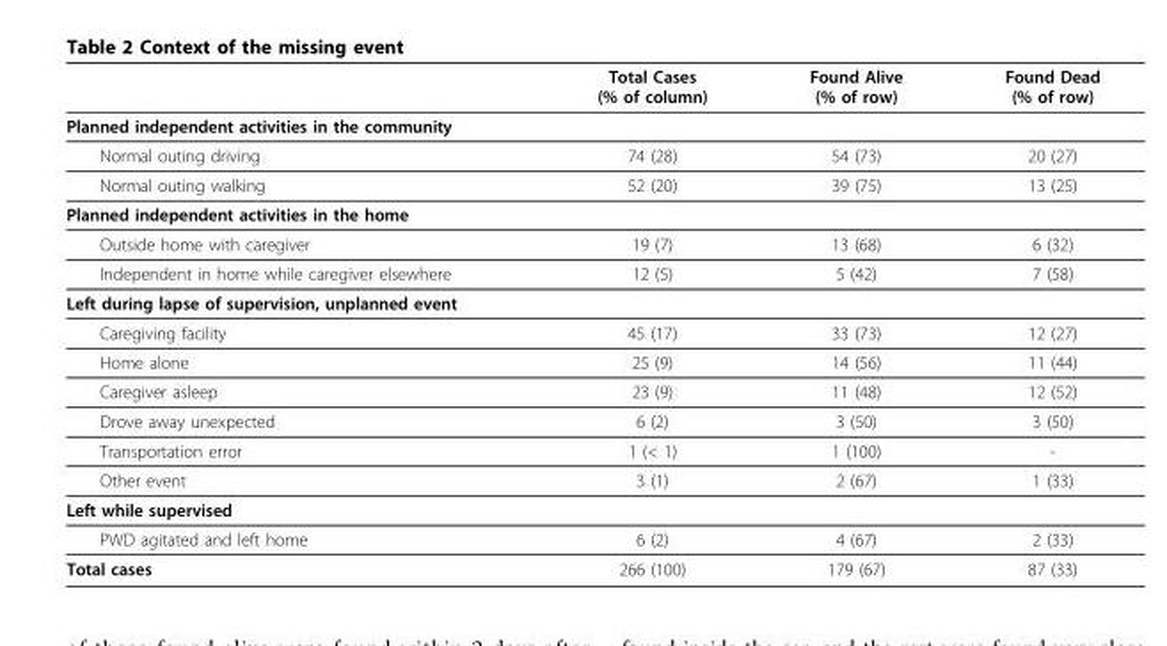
<table><thead><tr><td></td><td>Total Cases (% of column)</td><td>Found Alive (% of row)</td><td>Found Dead (% of row)</td></tr></thead><tbody><tr><td colspan="4">Planned independent activities in the community</td></tr><tr><td>Normal outing driving</td><td>74 (28)</td><td>54 (73)</td><td>20 (27)</td></tr><tr><td>Normal outing walking</td><td>52 (20)</td><td>39 (75)</td><td>13 (25)</td></tr><tr><td colspan="4">Planned independent activities in the home</td></tr><tr><td>Outside home with caregiver</td><td>19 (7)</td><td>13 (68)</td><td>6 (32)</td></tr><tr><td>Independent in home while caregiver elsewhere</td><td>12 (5)</td><td>5 (42)</td><td>7 (58)</td></tr><tr><td colspan="4">Left during lapse of supervision, unplanned event</td></tr><tr><td>Caregiving facility</td><td>45 (17)</td><td>33 (73)</td><td>12 (27)</td></tr><tr><td>Home alone</td><td>25 (9)</td><td>14 (56)</td><td>11 (44)</td></tr><tr><td>Caregiver asleep</td><td>23 (9)</td><td>11 (48)</td><td>12 (52)</td></tr><tr><td>Drove away unexpected</td><td>6 (2)</td><td>3 (50)</td><td>3 (50)</td></tr><tr><td>Transportation error</td><td>1 (&lt; 1)</td><td>1 (100)</td><td>-</td></tr><tr><td>Other event</td><td>3 (1)</td><td>2 (67)</td><td>1 (33)</td></tr><tr><td colspan="4">Left while supervised</td></tr><tr><td>PWD agitated and left home</td><td>6 (2)</td><td>4 (67)</td><td>2 (33)</td></tr><tr><td>Total cases</td><td>266 (100)</td><td>179 (67)</td><td>87 (33)</td></tr></tbody></table>